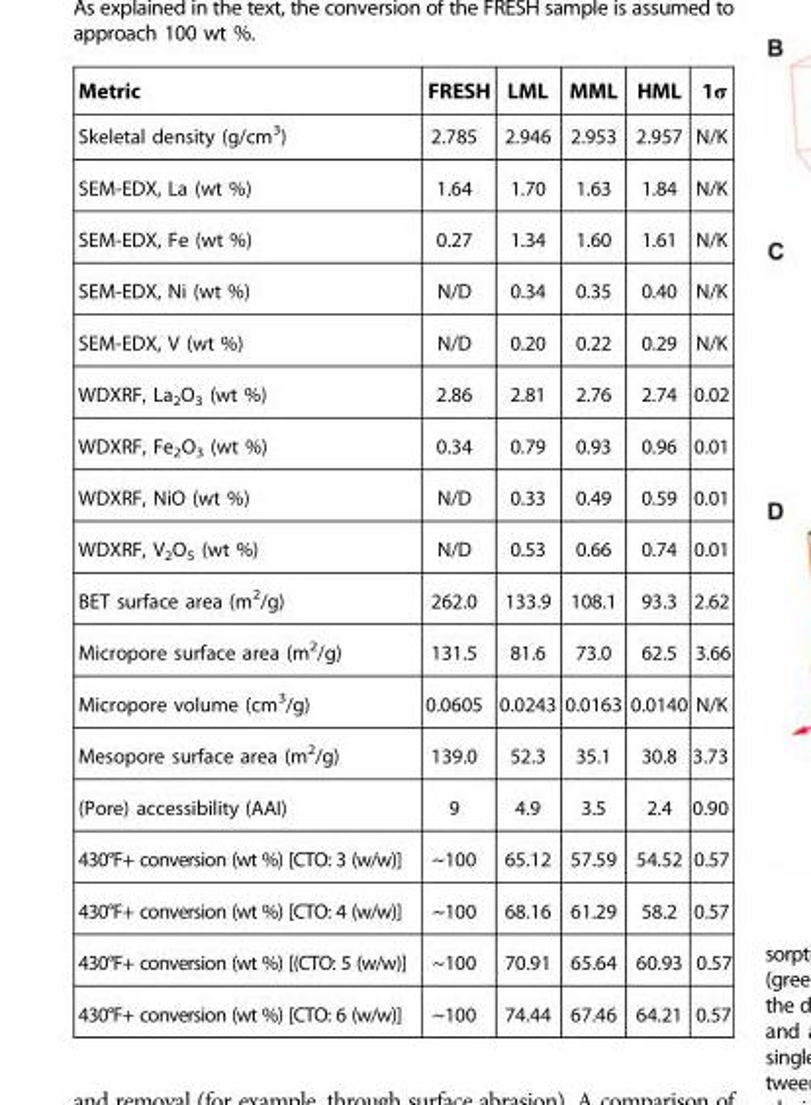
<table><thead><tr><td>Metric</td><td>FRESH</td><td>LML</td><td>MML</td><td>HML</td><td>1σ</td></tr></thead><tbody><tr><td>Skeletal density (g/cm<sup>3</sup>)</td><td>2.785</td><td>2.946</td><td>2.953</td><td>2.957</td><td>N/K</td></tr><tr><td>SEM-EDX, La (wt %)</td><td>1.64</td><td>1.70</td><td>1.63</td><td>1.84</td><td>N/K</td></tr><tr><td>SEM-EDX, Fe (wt %)</td><td>0.27</td><td>1.34</td><td>1.60</td><td>1.61</td><td>N/K</td></tr><tr><td>SEM-EDX, Ni (wt %)</td><td>N/D</td><td>0.34</td><td>0.35</td><td>0.40</td><td>N/K</td></tr><tr><td>SEM-EDX, V (wt %)</td><td>N/D</td><td>0.20</td><td>0.22</td><td>0.29</td><td>N/K</td></tr><tr><td>WDXRF, La<sub>2</sub>O<sub>3</sub> (wt %)</td><td>2.86</td><td>2.81</td><td>2.76</td><td>2.74</td><td>0.02</td></tr><tr><td>WDXRF, Fe<sub>2</sub>O<sub>3</sub> (wt %)</td><td>0.34</td><td>0.79</td><td>0.93</td><td>0.96</td><td>0.01</td></tr><tr><td>WDXRF, NiO (wt %)</td><td>N/D</td><td>0.33</td><td>0.49</td><td>0.59</td><td>0.01</td></tr><tr><td>WDXRF, V<sub>2</sub>O<sub>5</sub> (wt %)</td><td>N/D</td><td>0.53</td><td>0.66</td><td>0.74</td><td>0.01</td></tr><tr><td>BET surface area (m<sup>2</sup>/g)</td><td>262.0</td><td>133.9</td><td>108.1</td><td>93.3</td><td>2.62</td></tr><tr><td>Micropore surface area (m<sup>2</sup>/g)</td><td>131.5</td><td>81.6</td><td>73.0</td><td>62.5</td><td>3.66</td></tr><tr><td>Micropore volume (cm<sup>3</sup>/g)</td><td>0.0605</td><td>0.0243</td><td>0.0163</td><td>0.0140</td><td>N/K</td></tr><tr><td>Mesopore surface area (m<sup>2</sup>/g)</td><td>139.0</td><td>52.3</td><td>35.1</td><td>30.8</td><td>3.73</td></tr><tr><td>(Pore) accessibility (AAI)</td><td>9</td><td>4.9</td><td>3.5</td><td>2.4</td><td>0.90</td></tr><tr><td>430°F+ conversion (wt %) [CTO: 3 (w/w)]</td><td>~100</td><td>65.12</td><td>57.59</td><td>54.52</td><td>0.57</td></tr><tr><td>430°F+ conversion (wt %) [CTO: 4 (w/w)]</td><td>~100</td><td>68.16</td><td>61.29</td><td>58.2</td><td>0.57</td></tr><tr><td>430°F+ conversion (wt %) [(CTO: 5 (w/w)]</td><td>~100</td><td>70.91</td><td>65.64</td><td>60.93</td><td>0.57</td></tr><tr><td>430°F+ conversion (wt %) [CTO: 6 (w/w)]</td><td>~100</td><td>74.44</td><td>67.46</td><td>64.21</td><td>0.57</td></tr></tbody></table>